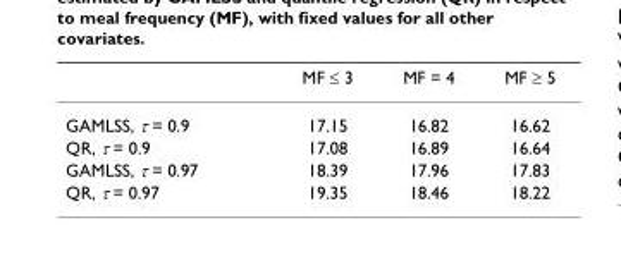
<table><thead><tr><td></td><td>MF ≤ 3</td><td>MF = 4</td><td>MF ≥ 5</td></tr></thead><tbody><tr><td>GAMLSS, τ = 0.9</td><td>17.15</td><td>16.82</td><td>16.62</td></tr><tr><td>QR, τ = 0.9</td><td>17.08</td><td>16.89</td><td>16.64</td></tr><tr><td>GAMLSS, τ = 0.97</td><td>18.39</td><td>17.96</td><td>17.83</td></tr><tr><td>QR, τ = 0.97</td><td>19.35</td><td>18.46</td><td>18.22</td></tr></tbody></table>